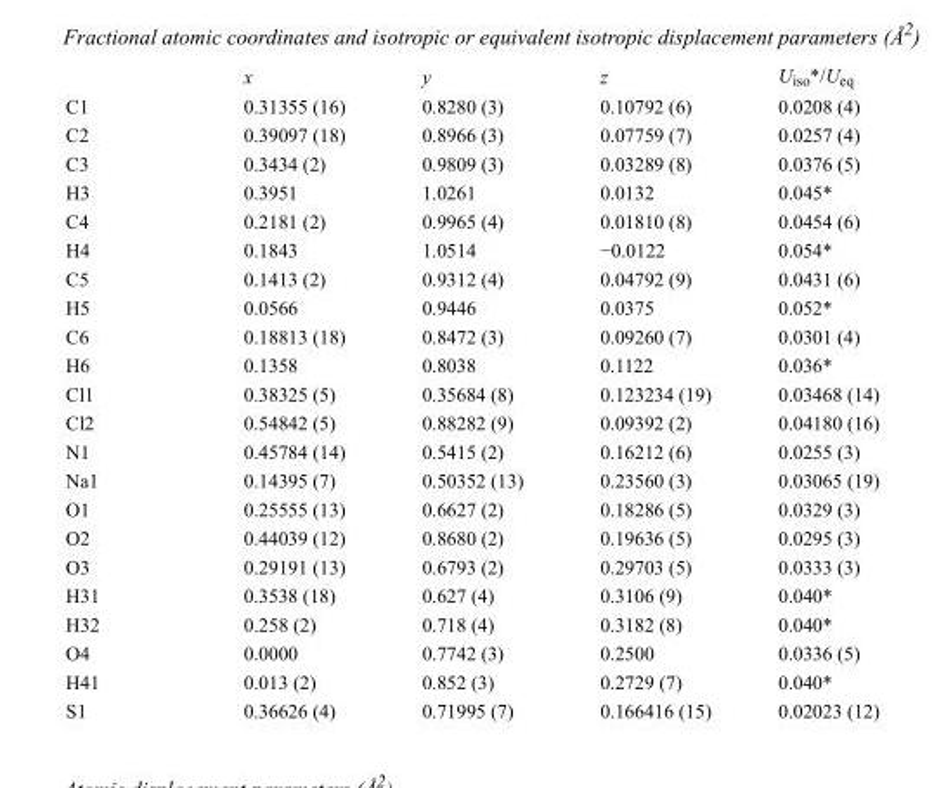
<table><thead><tr><td></td><td>x</td><td>y</td><td>z</td><td>U<sub>iso</sub>*/U<sub>eq</sub></td></tr></thead><tbody><tr><td>C1</td><td>0.31355 (16)</td><td>0.8280 (3)</td><td>0.10792 (6)</td><td>0.0208 (4)</td></tr><tr><td>C2</td><td>0.39097 (18)</td><td>0.8966 (3)</td><td>0.07759 (7)</td><td>0.0257 (4)</td></tr><tr><td>C3</td><td>0.3434 (2)</td><td>0.9809 (3)</td><td>0.03289 (8)</td><td>0.0376 (5)</td></tr><tr><td>H3</td><td>0.3951</td><td>1.0261</td><td>0.0132</td><td>0.045*</td></tr><tr><td>C4</td><td>0.2181 (2)</td><td>0.9965 (4)</td><td>0.01810 (8)</td><td>0.0454 (6)</td></tr><tr><td>H4</td><td>0.1843</td><td>1.0514</td><td>−0.0122</td><td>0.054*</td></tr><tr><td>C5</td><td>0.1413 (2)</td><td>0.9312 (4)</td><td>0.04792 (9)</td><td>0.0431 (6)</td></tr><tr><td>H5</td><td>0.0566</td><td>0.9446</td><td>0.0375</td><td>0.052*</td></tr><tr><td>C6</td><td>0.18813 (18)</td><td>0.8472 (3)</td><td>0.09260 (7)</td><td>0.0301 (4)</td></tr><tr><td>H6</td><td>0.1358</td><td>0.8038</td><td>0.1122</td><td>0.036*</td></tr><tr><td>Cl1</td><td>0.38325 (5)</td><td>0.35684 (8)</td><td>0.123234 (19)</td><td>0.03468 (14)</td></tr><tr><td>Cl2</td><td>0.54842 (5)</td><td>0.88282 (9)</td><td>0.09392 (2)</td><td>0.04180 (16)</td></tr><tr><td>N1</td><td>0.45784 (14)</td><td>0.5415 (2)</td><td>0.16212 (6)</td><td>0.0255 (3)</td></tr><tr><td>Na1</td><td>0.14395 (7)</td><td>0.50352 (13)</td><td>0.23560 (3)</td><td>0.03065 (19)</td></tr><tr><td>O1</td><td>0.25555 (13)</td><td>0.6627 (2)</td><td>0.18286 (5)</td><td>0.0329 (3)</td></tr><tr><td>O2</td><td>0.44039 (12)</td><td>0.8680 (2)</td><td>0.19636 (5)</td><td>0.0295 (3)</td></tr><tr><td>O3</td><td>0.29191 (13)</td><td>0.6793 (2)</td><td>0.29703 (5)</td><td>0.0333 (3)</td></tr><tr><td>H31</td><td>0.3538 (18)</td><td>0.627 (4)</td><td>0.3106 (9)</td><td>0.040*</td></tr><tr><td>H32</td><td>0.258 (2)</td><td>0.718 (4)</td><td>0.3182 (8)</td><td>0.040*</td></tr><tr><td>O4</td><td>0.0000</td><td>0.7742 (3)</td><td>0.2500</td><td>0.0336 (5)</td></tr><tr><td>H41</td><td>0.013 (2)</td><td>0.852 (3)</td><td>0.2729 (7)</td><td>0.040*</td></tr><tr><td>S1</td><td>0.36626 (4)</td><td>0.71995 (7)</td><td>0.166416 (15)</td><td>0.02023 (12)</td></tr></tbody></table>